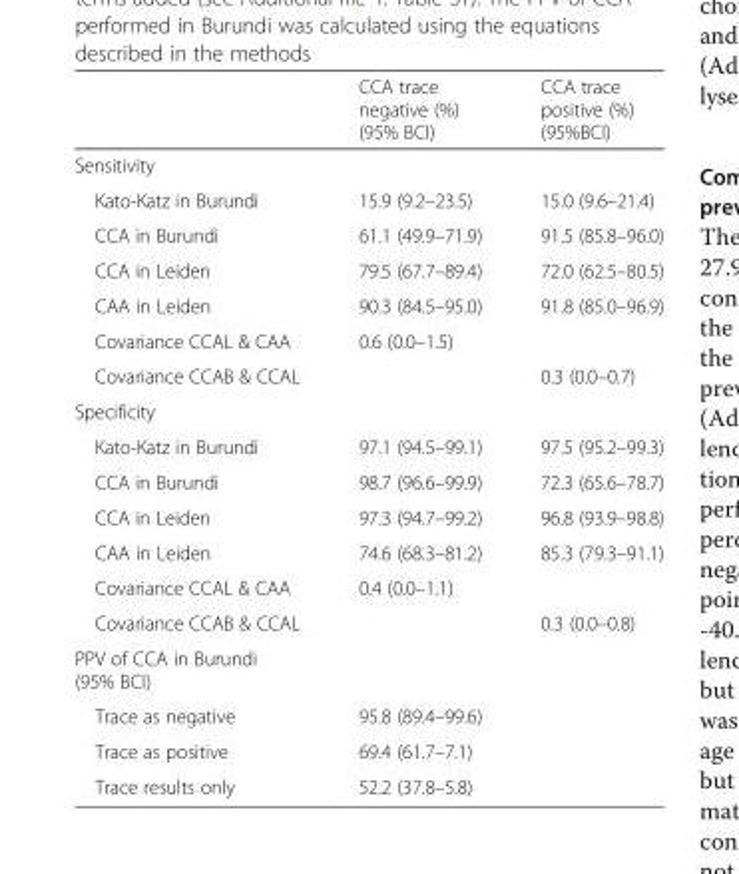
<table><thead><tr><td></td><td>CCA trace negative (%) (95% BCI)</td><td>CCA trace positive (%) (95%BCI)</td></tr></thead><tbody><tr><td colspan="3">Sensitivity</td></tr><tr><td>Kato-Katz in Burundi</td><td>15.9 (9.2–23.5)</td><td>15.0 (9.6–21.4)</td></tr><tr><td>CCA in Burundi</td><td>61.1 (49.9–71.9)</td><td>91.5 (85.8–96.0)</td></tr><tr><td>CCA in Leiden</td><td>79.5 (67.7–89.4)</td><td>72.0 (62.5–80.5)</td></tr><tr><td>CAA in Leiden</td><td>90.3 (84.5–95.0)</td><td>91.8 (85.0–96.9)</td></tr><tr><td>Covariance CCAL &amp; CAA</td><td>0.6 (0.0–1.5)</td><td></td></tr><tr><td>Covariance CCAB &amp; CCAL</td><td></td><td>0.3 (0.0–0.7)</td></tr><tr><td colspan="3">Specificity</td></tr><tr><td>Kato-Katz in Burundi</td><td>97.1 (94.5–99.1)</td><td>97.5 (95.2–99.3)</td></tr><tr><td>CCA in Burundi</td><td>98.7 (96.6–99.9)</td><td>72.3 (65.6–78.7)</td></tr><tr><td>CCA in Leiden</td><td>97.3 (94.7–99.2)</td><td>96.8 (93.9–98.8)</td></tr><tr><td>CAA in Leiden</td><td>74.6 (68.3–81.2)</td><td>85.3 (79.3–91.1)</td></tr><tr><td>Covariance CCAL &amp; CAA</td><td>0.4 (0.0–1.1)</td><td></td></tr><tr><td>Covariance CCAB &amp; CCAL</td><td></td><td>0.3 (0.0–0.8)</td></tr><tr><td colspan="3">PPV of CCA in Burundi (95% BCI)</td></tr><tr><td>Trace as negative</td><td colspan="2">95.8 (89.4–99.6)</td></tr><tr><td>Trace as positive</td><td colspan="2">69.4 (61.7–7.1)</td></tr><tr><td>Trace results only</td><td colspan="2">52.2 (37.8–5.8)</td></tr></tbody></table>